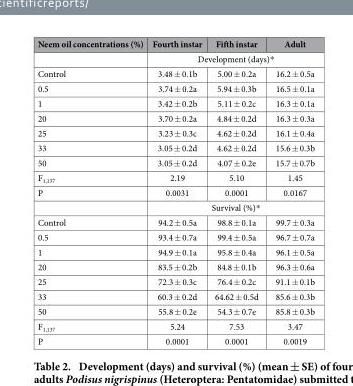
<table><thead><tr><td rowspan="2">Neem oil concentrations (%)</td><td>Fourth instar</td><td>Fifth instar</td><td>Adult</td></tr><tr><td colspan="3">Development (days)*</td></tr></thead><tbody><tr><td>Control</td><td>3.48 ± 0.1b</td><td>5.00 ± 0.2a</td><td>16.2 ± 0.5a</td></tr><tr><td>0.5</td><td>3.74 ± 0.2a</td><td>5.94 ± 0.3b</td><td>16.5 ± 0.1a</td></tr><tr><td>1</td><td>3.42 ± 0.2b</td><td>5.11 ± 0.2c</td><td>16.3 ± 0.1a</td></tr><tr><td>20</td><td>3.70 ± 0.2a</td><td>4.84 ± 0.2d</td><td>16.3 ± 0.3a</td></tr><tr><td>25</td><td>3.23 ± 0.3c</td><td>4.62 ± 0.2d</td><td>16.1 ± 0.4a</td></tr><tr><td>33</td><td>3.05 ± 0.2d</td><td>4.62 ± 0.2d</td><td>15.6 ± 0.3b</td></tr><tr><td>50</td><td>3.05 ± 0.2d</td><td>4.07 ± 0.2e</td><td>15.7 ± 0.7b</td></tr><tr><td>F<sub>1,137</sub></td><td>2.19</td><td>5.10</td><td>1.45</td></tr><tr><td rowspan="2">P</td><td>0.0031</td><td>0.0001</td><td>0.0167</td></tr><tr><td colspan="3">Survival (%)*</td></tr><tr><td>Control</td><td>94.2 ± 0.5a</td><td>98.8 ± 0.1a</td><td>99.7 ± 0.3a</td></tr><tr><td>0.5</td><td>93.4 ± 0.7a</td><td>99.4 ± 0.5a</td><td>96.7 ± 0.7a</td></tr><tr><td>1</td><td>94.9 ± 0.1a</td><td>95.8 ± 0.4a</td><td>96.1 ± 0.5a</td></tr><tr><td>20</td><td>83.5 ± 0.2b</td><td>84.8 ± 0.1b</td><td>96.3 ± 0.6a</td></tr><tr><td>25</td><td>72.3 ± 0.3c</td><td>76.4 ± 0.2c</td><td>91.1 ± 0.1b</td></tr><tr><td>33</td><td>60.3 ± 0.2d</td><td>64.62 ± 0.5d</td><td>85.6 ± 0.3b</td></tr><tr><td>50</td><td>55.8 ± 0.2e</td><td>54.3 ± 0.7e</td><td>85.8 ± 0.3b</td></tr><tr><td>F<sub>1,137</sub></td><td>5.24</td><td>7.53</td><td>3.47</td></tr><tr><td>P</td><td>0.0001</td><td>0.0001</td><td>0.0019</td></tr></tbody></table>